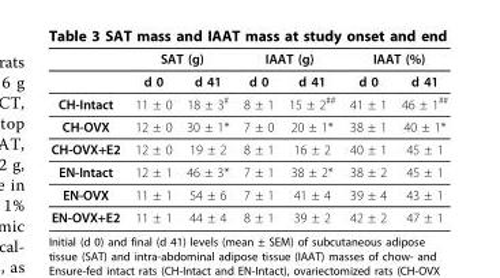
<table><thead><tr><td rowspan="2"></td><td colspan="2">SAT (g)</td><td colspan="2">IAAT (g)</td><td colspan="2">IAAT (%)</td></tr><tr><td>d 0</td><td>d 41</td><td>d 0</td><td>d 41</td><td>d 0</td><td>d 41</td></tr></thead><tbody><tr><td>CH-Intact</td><td>11 ± 0</td><td>18 ± 3<sup>#</sup></td><td>8 ± 1</td><td>15 ± 2<sup>##</sup></td><td>41 ± 1</td><td>46 ± 1<sup>##</sup></td></tr><tr><td>CH-OVX</td><td>12 ± 0</td><td>30 ± 1*</td><td>7 ± 0</td><td>20 ± 1*</td><td>38 ± 1</td><td>40 ± 1*</td></tr><tr><td>CH-OVX+E2</td><td>12 ± 0</td><td>19 ± 2</td><td>8 ± 1</td><td>16 ± 2</td><td>40 ± 1</td><td>45 ± 1</td></tr><tr><td>EN-Intact</td><td>12 ± 1</td><td>46 ± 3*</td><td>7 ± 1</td><td>38 ± 2*</td><td>38 ± 2</td><td>45 ± 1</td></tr><tr><td>EN-OVX</td><td>11 ± 1</td><td>54 ± 6</td><td>7 ± 1</td><td>41 ± 4</td><td>39 ± 4</td><td>43 ± 1</td></tr><tr><td>EN-OVX+E2</td><td>11 ± 1</td><td>44 ± 4</td><td>8 ± 1</td><td>39 ± 2</td><td>42 ± 2</td><td>47 ± 1</td></tr></tbody></table>